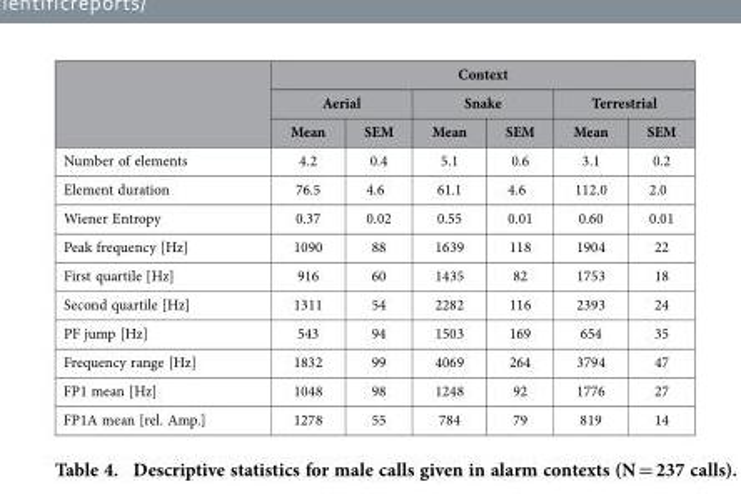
<table><thead><tr><td rowspan="3"></td><td colspan="6">Context</td></tr><tr><td colspan="2">Aerial</td><td colspan="2">Snake</td><td colspan="2">Terrestrial</td></tr><tr><td>Mean</td><td>SEM</td><td>Mean</td><td>SEM</td><td>Mean</td><td>SEM</td></tr></thead><tbody><tr><td>Number of elements</td><td>4.2</td><td>0.4</td><td>5.1</td><td>0.6</td><td>3.1</td><td>0.2</td></tr><tr><td>Element duration</td><td>76.5</td><td>4.6</td><td>61.1</td><td>4.6</td><td>112.0</td><td>2.0</td></tr><tr><td>Wiener Entropy</td><td>0.37</td><td>0.02</td><td>0.55</td><td>0.01</td><td>0.60</td><td>0.01</td></tr><tr><td>Peak frequency [Hz]</td><td>1090</td><td>88</td><td>1639</td><td>118</td><td>1904</td><td>22</td></tr><tr><td>First quartile [Hz]</td><td>916</td><td>60</td><td>1435</td><td>82</td><td>1753</td><td>18</td></tr><tr><td>Second quartile [Hz]</td><td>1311</td><td>54</td><td>2282</td><td>116</td><td>2393</td><td>24</td></tr><tr><td>PF jump [Hz]</td><td>543</td><td>94</td><td>1503</td><td>169</td><td>654</td><td>35</td></tr><tr><td>Frequency range [Hz]</td><td>1832</td><td>99</td><td>4069</td><td>264</td><td>3794</td><td>47</td></tr><tr><td>FP1 mean [Hz]</td><td>1048</td><td>98</td><td>1248</td><td>92</td><td>1776</td><td>27</td></tr><tr><td>FP1A mean [rel. Amp.]</td><td>1278</td><td>55</td><td>784</td><td>79</td><td>819</td><td>14</td></tr></tbody></table>